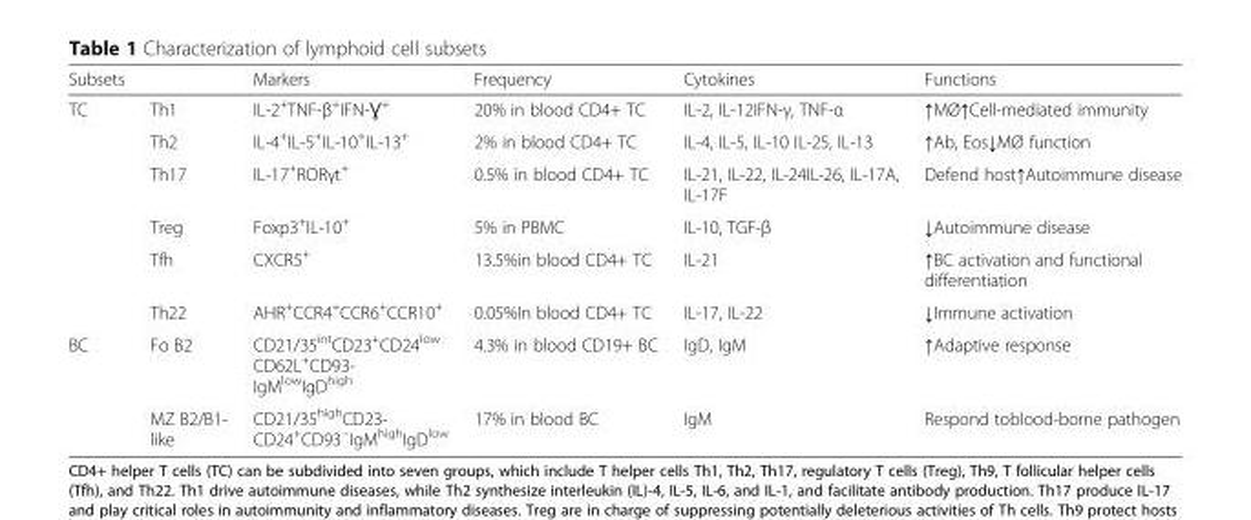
<table><thead><tr><td>Subsets</td><td></td><td>Markers</td><td>Frequency</td><td>Cytokines</td><td>Functions</td></tr></thead><tbody><tr><td rowspan="6">TC</td><td>Th1</td><td>IL-2<sup>+</sup>TNF-β<sup>+</sup>IFN-Ɣ<sup>+</sup></td><td>20% in blood CD4+ TC</td><td>IL-2, IL-12IFN-γ, TNF-α</td><td>↑MØ↑Cell-mediated immunity</td></tr><tr><td>Th2</td><td>IL-4<sup>+</sup>IL-5<sup>+</sup>IL-10<sup>+</sup>IL-13<sup>+</sup></td><td>2% in blood CD4+ TC</td><td>IL-4, IL-5, IL-10 IL-25, IL-13</td><td>↑Ab, Eos↓MØ function</td></tr><tr><td>Th17</td><td>IL-17<sup>+</sup>RORγt<sup>+</sup></td><td>0.5% in blood CD4+ TC</td><td>IL-21, IL-22, IL-24IL-26, IL-17A, IL-17F</td><td>Defend host↑Autoimmune disease</td></tr><tr><td>Treg</td><td>Foxp3<sup>+</sup>IL-10<sup>+</sup></td><td>5% in PBMC</td><td>IL-10, TGF-β</td><td>↓Autoimmune disease</td></tr><tr><td>Tfh</td><td>CXCR5<sup>+</sup></td><td>13.5%in blood CD4+ TC</td><td>IL-21</td><td>↑BC activation and functional differentiation</td></tr><tr><td>Th22</td><td>AHR<sup>+</sup>CCR4<sup>+</sup>CCR6<sup>+</sup>CCR10<sup>+</sup></td><td>0.05%In blood CD4+ TC</td><td>IL-17, IL-22</td><td>↓Immune activation</td></tr><tr><td rowspan="2">BC</td><td>Fo B2</td><td>CD21/35<sup>int</sup>CD23<sup>+</sup>CD24<sup>low</sup> CD62L<sup>+</sup>CD93- IgM<sup>low</sup>IgD<sup>high</sup></td><td>4.3% in blood CD19+ BC</td><td>IgD, IgM</td><td>↑Adaptive response</td></tr><tr><td>MZ B2/B1- like</td><td>CD21/35<sup>high</sup>CD23- CD24<sup>+</sup>CD93<sup>−</sup>IgM<sup>high</sup>IgD<sup>low</sup></td><td>17% in blood BC</td><td>IgM</td><td>Respond toblood-borne pathogen</td></tr></tbody></table>